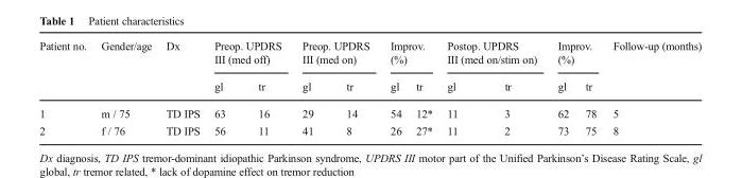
<table><thead><tr><td rowspan="2">Patient no.</td><td rowspan="2">Gender/age</td><td rowspan="2">Dx</td><td colspan="2">Preop. UPDRS III (med off)</td><td colspan="2">Preop. UPDRS III (med on)</td><td colspan="2">Improv. (%)</td><td colspan="2">Postop. UPDRS III (med on/stim on)</td><td colspan="2">Improv. (%)</td><td rowspan="2">Follow-up (months)</td></tr><tr><td>gl</td><td>tr</td><td>gl</td><td>tr</td><td>gl</td><td>tr</td><td>gl</td><td>tr</td><td>gl</td><td>tr</td></tr></thead><tbody><tr><td>1</td><td>m / 75</td><td>TD IPS</td><td>63</td><td>16</td><td>29</td><td>14</td><td>54</td><td>12*</td><td>11</td><td>3</td><td>62</td><td>78</td><td>5</td></tr><tr><td>2</td><td>f / 76</td><td>TD IPS</td><td>56</td><td>11</td><td>41</td><td>8</td><td>26</td><td>27*</td><td>11</td><td>2</td><td>73</td><td>75</td><td>8</td></tr></tbody></table>